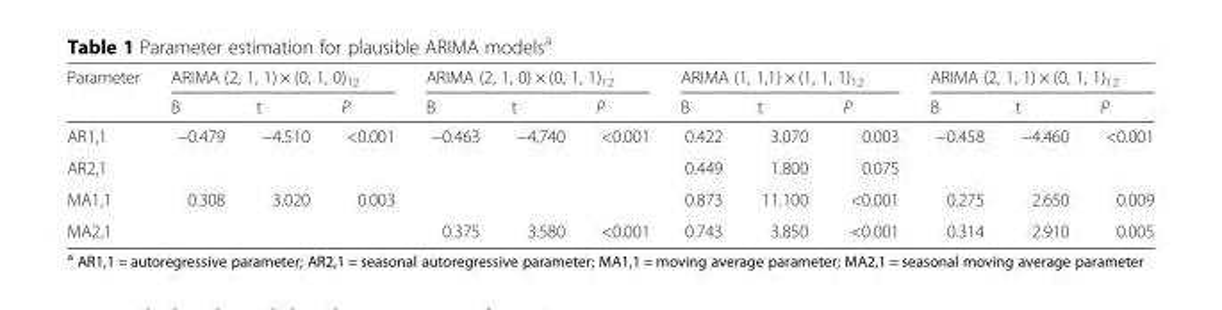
<table><thead><tr><td rowspan="2">Parameter</td><td colspan="3">ARIMA (2, 1, 1) × (0, 1, 0)<sub>12</sub></td><td colspan="3">ARIMA (2, 1, 0) × (0, 1, 1)<sub>12</sub></td><td colspan="3">ARIMA (1, 1,1) × (1, 1, 1)<sub>12</sub></td><td colspan="3">ARIMA (2, 1, 1) × (0, 1, 1)<sub>12</sub></td></tr><tr><td>B</td><td>t</td><td>P</td><td>B</td><td>t</td><td>P</td><td>B</td><td>t</td><td>P</td><td>B</td><td>t</td><td>P</td></tr></thead><tbody><tr><td>AR1,1</td><td>−0.479</td><td>−4.510</td><td>&lt;0.001</td><td>−0.463</td><td>−4.740</td><td>&lt;0.001</td><td>0.422</td><td>3.070</td><td>0.003</td><td>−0.458</td><td>−4.460</td><td>&lt;0.001</td></tr><tr><td>AR2,1</td><td></td><td></td><td></td><td></td><td></td><td></td><td>0.449</td><td>1.800</td><td>0.075</td><td></td><td></td><td></td></tr><tr><td>MA1,1</td><td>0.308</td><td>3.020</td><td>0.003</td><td></td><td></td><td></td><td>0.873</td><td>11.100</td><td>&lt;0.001</td><td>0.275</td><td>2.650</td><td>0.009</td></tr><tr><td>MA2,1</td><td></td><td></td><td></td><td>0.375</td><td>3.580</td><td>&lt;0.001</td><td>0.743</td><td>3.850</td><td>&lt;0.001</td><td>0.314</td><td>2.910</td><td>0.005</td></tr></tbody></table>